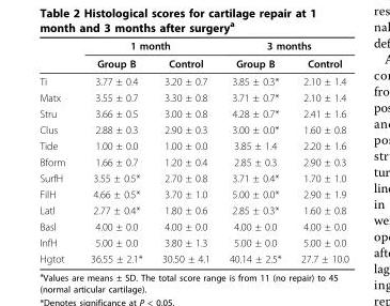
<table><thead><tr><td rowspan="2"></td><td colspan="2">1 month</td><td colspan="2">3 months</td></tr><tr><td>Group B</td><td>Control</td><td>Group B</td><td>Control</td></tr></thead><tbody><tr><td>Ti</td><td>3.77 ± 0.4</td><td>3.20 ± 0.7</td><td>3.85 ± 0.3*</td><td>2.10 ± 1.4</td></tr><tr><td>Matx</td><td>3.55 ± 0.7</td><td>3.30 ± 0.8</td><td>3.71 ± 0.7*</td><td>2.10 ± 1.4</td></tr><tr><td>Stru</td><td>3.66 ± 0.5</td><td>3.00 ± 0.8</td><td>4.28 ± 0.7*</td><td>2.41 ± 1.6</td></tr><tr><td>Clus</td><td>2.88 ± 0.3</td><td>2.90 ± 0.3</td><td>3.00 ± 0.0*</td><td>1.60 ± 0.8</td></tr><tr><td>Tide</td><td>1.00 ± 0.0</td><td>1.00 ± 0.0</td><td>3.85 ± 1.4</td><td>2.20 ± 1.6</td></tr><tr><td>Bform</td><td>1.66 ± 0.7</td><td>1.20 ± 0.4</td><td>2.85 ± 0.3</td><td>2.90 ± 0.3</td></tr><tr><td>SurfH</td><td>3.55 ± 0.5*</td><td>2.70 ± 0.8</td><td>3.71 ± 0.4*</td><td>1.70 ± 1.0</td></tr><tr><td>FilH</td><td>4.66 ± 0.5*</td><td>3.70 ± 1.0</td><td>5.00 ± 0.0*</td><td>2.90 ± 1.9</td></tr><tr><td>Latl</td><td>2.77 ± 0.4*</td><td>1.80 ± 0.6</td><td>2.85 ± 0.3*</td><td>1.60 ± 0.8</td></tr><tr><td>Basl</td><td>4.00 ± 0.0</td><td>4.00 ± 0.0</td><td>4.00 ± 0.0</td><td>4.00 ± 0.0</td></tr><tr><td>InfH</td><td>5.00 ± 0.0</td><td>3.80 ± 1.3</td><td>5.00 ± 0.0</td><td>5.00 ± 0.0</td></tr><tr><td>Hgtot</td><td>36.55 ± 2.1*</td><td>30.50 ± 4.1</td><td>40.14 ± 2.5*</td><td>27.7 ± 10.0</td></tr></tbody></table>